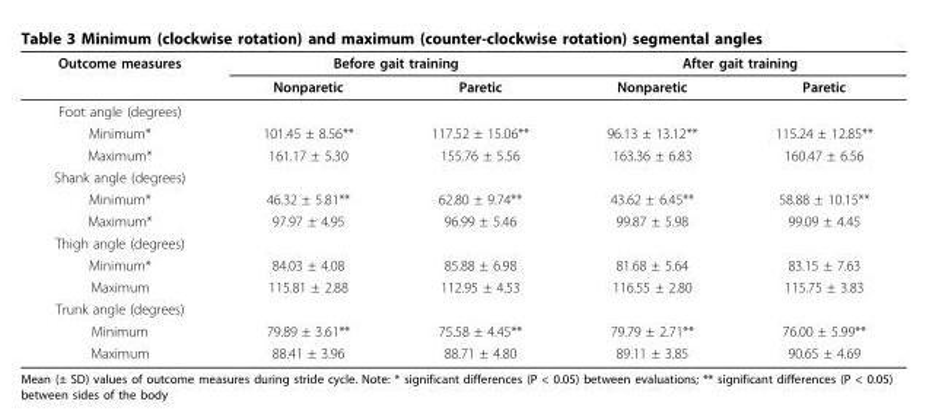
<table><thead><tr><td rowspan="2">Outcome measures</td><td colspan="2">Before gait training</td><td colspan="2">After gait training</td></tr><tr><td>Nonparetic</td><td>Paretic</td><td>Nonparetic</td><td>Paretic</td></tr></thead><tbody><tr><td colspan="5">Foot angle (degrees)</td></tr><tr><td>Minimum*</td><td>101.45 ± 8.56**</td><td>117.52 ± 15.06**</td><td>96.13 ± 13.12**</td><td>115.24 ± 12.85**</td></tr><tr><td>Maximum*</td><td>161.17 ± 5.30</td><td>155.76 ± 5.56</td><td>163.36 ± 6.83</td><td>160.47 ± 6.56</td></tr><tr><td colspan="5">Shank angle (degrees)</td></tr><tr><td>Minimum*</td><td>46.32 ± 5.81**</td><td>62.80 ± 9.74**</td><td>43.62 ± 6.45**</td><td>58.88 ± 10.15**</td></tr><tr><td>Maximum*</td><td>97.97 ± 4.95</td><td>96.99 ± 5.46</td><td>99.87 ± 5.98</td><td>99.09 ± 4.45</td></tr><tr><td colspan="5">Thigh angle (degrees)</td></tr><tr><td>Minimum*</td><td>84.03 ± 4.08</td><td>85.88 ± 6.98</td><td>81.68 ± 5.64</td><td>83.15 ± 7.63</td></tr><tr><td>Maximum</td><td>115.81 ± 2.88</td><td>112.95 ± 4.53</td><td>116.55 ± 2.80</td><td>115.75 ± 3.83</td></tr><tr><td colspan="5">Trunk angle (degrees)</td></tr><tr><td>Minimum</td><td>79.89 ± 3.61**</td><td>75.58 ± 4.45**</td><td>79.79 ± 2.71**</td><td>76.00 ± 5.99**</td></tr><tr><td>Maximum</td><td>88.41 ± 3.96</td><td>88.71 ± 4.80</td><td>89.11 ± 3.85</td><td>90.65 ± 4.69</td></tr></tbody></table>